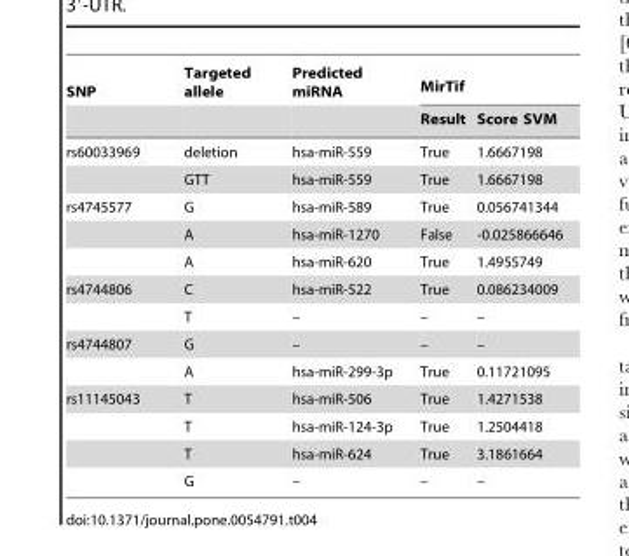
<table><thead><tr><td rowspan="2">SNP</td><td rowspan="2">Targeted allele</td><td rowspan="2">Predicted miRNA</td><td colspan="2">MirTif</td></tr><tr><td>Result</td><td>Score SVM</td></tr></thead><tbody><tr><td rowspan="2">rs60033969</td><td>deletion</td><td>hsa-miR-559</td><td>True</td><td>1.6667198</td></tr><tr><td>GTT</td><td>hsa-miR-559</td><td>True</td><td>1.6667198</td></tr><tr><td rowspan="3">rs4745577</td><td>G</td><td>hsa-miR-589</td><td>True</td><td>0.056741344</td></tr><tr><td>A</td><td>hsa-miR-1270</td><td>False</td><td>-0.025866646</td></tr><tr><td>A</td><td>hsa-miR-620</td><td>True</td><td>1.4955749</td></tr><tr><td rowspan="2">rs4744806</td><td>C</td><td>hsa-miR-522</td><td>True</td><td>0.086234009</td></tr><tr><td>T</td><td>–</td><td>–</td><td>–</td></tr><tr><td rowspan="2">rs4744807</td><td>G</td><td>–</td><td>–</td><td>–</td></tr><tr><td>A</td><td>hsa-miR-299-3p</td><td>True</td><td>0.11721095</td></tr><tr><td rowspan="4">rs11145043</td><td>T</td><td>hsa-miR-506</td><td>True</td><td>1.4271538</td></tr><tr><td>T</td><td>hsa-miR-124-3p</td><td>True</td><td>1.2504418</td></tr><tr><td>T</td><td>hsa-miR-624</td><td>True</td><td>3.1861664</td></tr><tr><td>G</td><td>–</td><td>–</td><td>–</td></tr></tbody></table>